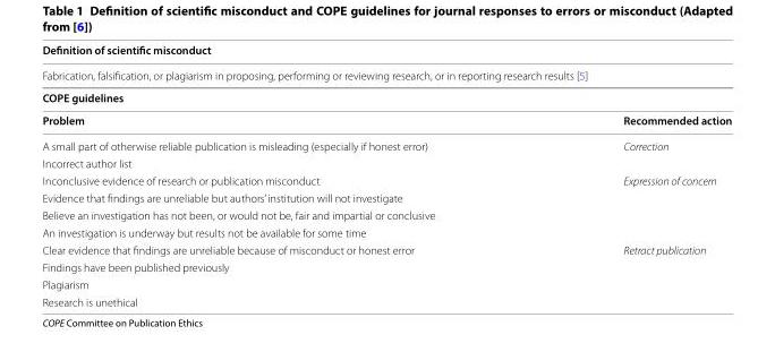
<table><thead><tr><td rowspan="3" colspan="2">Definition of scientific misconduct Fabrication, falsification, or plagiarism in proposing, performing or reviewing research, or in reporting research results [5] COPE guidelines</td></tr><tr></tr><tr></tr><tr><td>Problem</td><td>Recommended action</td></tr></thead><tbody><tr><td>A small part of otherwise reliable publication is misleading (especially if honest error)</td><td>Correction</td></tr><tr><td colspan="2">Incorrect author list</td></tr><tr><td>Inconclusive evidence of research or publication misconduct</td><td>Expression of concern</td></tr><tr><td colspan="2">Evidence that findings are unreliable but authors’ institution will not investigate</td></tr><tr><td colspan="2">Believe an investigation has not been, or would not be, fair and impartial or conclusive</td></tr><tr><td colspan="2">An investigation is underway but results not be available for some time</td></tr><tr><td>Clear evidence that findings are unreliable because of misconduct or honest error</td><td>Retract publication</td></tr><tr><td colspan="2">Findings have been published previously</td></tr><tr><td colspan="2">Plagiarism</td></tr><tr><td>Research is unethical</td><td></td></tr></tbody></table>